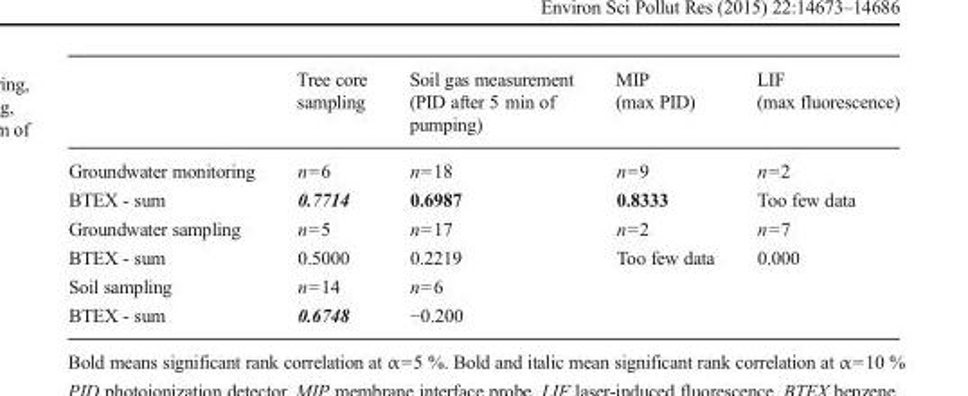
<table><thead><tr><td></td><td>Tree core sampling</td><td>Soil gas measurement (PID after 5 min of pumping)</td><td>MIP (max PID)</td><td>LIF (max fluorescence)</td></tr></thead><tbody><tr><td>Groundwater monitoring</td><td>n=6</td><td>n=18</td><td>n=9</td><td>n=2</td></tr><tr><td>BTEX - sum</td><td>0.7714</td><td>0.6987</td><td>0.8333</td><td>Too few data</td></tr><tr><td>Groundwater sampling</td><td>n=5</td><td>n=17</td><td>n=2</td><td>n=7</td></tr><tr><td>BTEX - sum</td><td>0.5000</td><td>0.2219</td><td>Too few data</td><td>0.000</td></tr><tr><td>Soil sampling</td><td>n=14</td><td>n=6</td><td></td><td></td></tr><tr><td>BTEX - sum</td><td>0.6748</td><td>−0.200</td><td></td><td></td></tr></tbody></table>